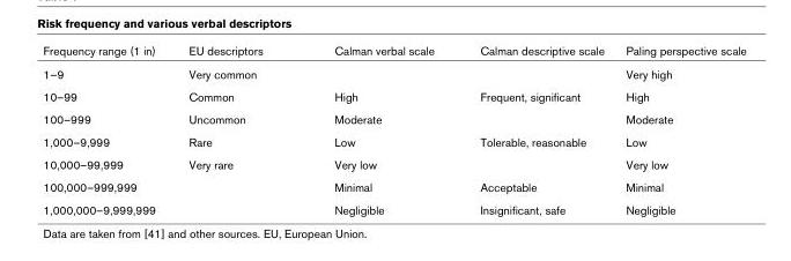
<table><thead><tr><td>Frequency range (1 in)</td><td>EU descriptors</td><td>Calman verbal scale</td><td>Calman descriptive scale</td><td>Paling perspective scale</td></tr></thead><tbody><tr><td>1–9</td><td>Very common</td><td></td><td></td><td>Very high</td></tr><tr><td>10–99</td><td>Common</td><td>High</td><td>Frequent, significant</td><td>High</td></tr><tr><td>100–999</td><td>Uncommon</td><td>Moderate</td><td></td><td>Moderate</td></tr><tr><td>1,000–9,999</td><td>Rare</td><td>Low</td><td>Tolerable, reasonable</td><td>Low</td></tr><tr><td>10,000–99,999</td><td>Very rare</td><td>Very low</td><td></td><td>Very low</td></tr><tr><td>100,000–999,999</td><td></td><td>Minimal</td><td>Acceptable</td><td>Minimal</td></tr><tr><td>1,000,000–9,999,999</td><td></td><td>Negligible</td><td>Insignificant, safe</td><td>Negligible</td></tr></tbody></table>